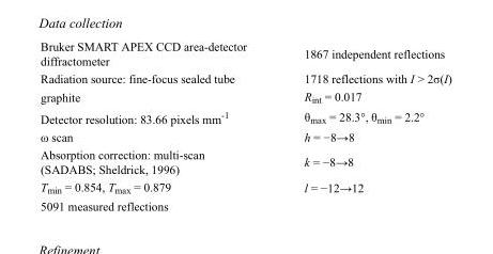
<table><tbody><tr><td>Bruker SMART APEX CCD area-detector diffractometer</td><td>1867 independent reflections</td></tr><tr><td>Radiation source: fine-focus sealed tube</td><td>1718 reflections with I &gt; 2σ(I)</td></tr><tr><td>graphite</td><td>R<sub>int</sub> = 0.017</td></tr><tr><td>Detector resolution: 83.66 pixels mm<sup>-1</sup></td><td>θ<sub>max</sub> = 28.3°, θ<sub>min</sub> = 2.2°</td></tr><tr><td>ω scan</td><td>h = −8→8</td></tr><tr><td>Absorption correction: multi-scan (SADABS; Sheldrick, 1996)</td><td>k = −8→8</td></tr><tr><td>T<sub>min</sub> = 0.854, T<sub>max</sub> = 0.879</td><td>l = −12→12</td></tr><tr><td>5091 measured reflections</td><td></td></tr></tbody></table>